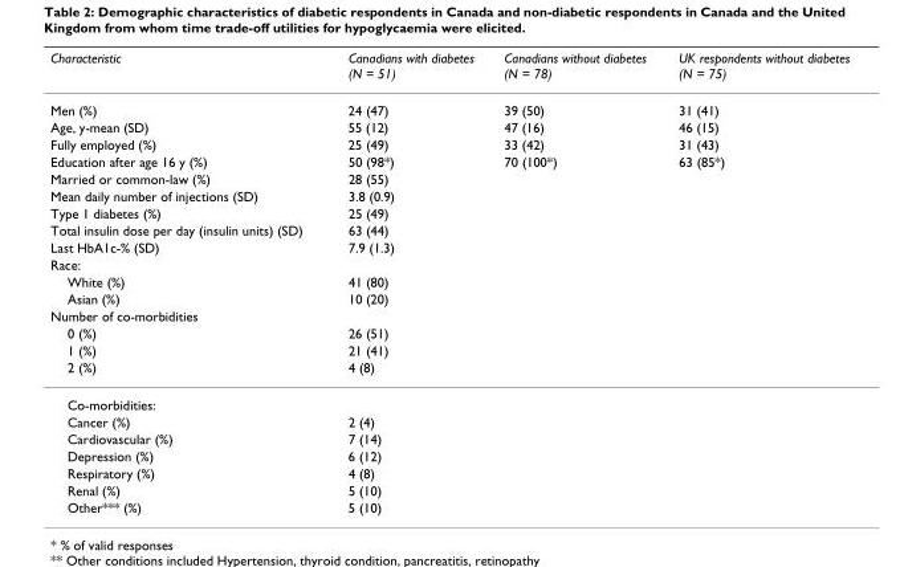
<table><thead><tr><td>Characteristic</td><td>Canadians with diabetes (N = 51)</td><td>Canadians without diabetes (N = 78)</td><td>UK respondents without diabetes (N = 75)</td></tr></thead><tbody><tr><td>Men (%)</td><td>24 (47)</td><td>39 (50)</td><td>31 (41)</td></tr><tr><td>Age, y-mean (SD)</td><td>55 (12)</td><td>47 (16)</td><td>46 (15)</td></tr><tr><td>Fully employed (%)</td><td>25 (49)</td><td>33 (42)</td><td>31 (43)</td></tr><tr><td>Education after age 16 y (%)</td><td>50 (98*)</td><td>70 (100*)</td><td>63 (85*)</td></tr><tr><td>Married or common-law (%)</td><td>28 (55)</td><td></td><td></td></tr><tr><td>Mean daily number of injections (SD)</td><td>3.8 (0.9)</td><td></td><td></td></tr><tr><td>Type 1 diabetes (%)</td><td>25 (49)</td><td></td><td></td></tr><tr><td>Total insulin dose per day (insulin units) (SD)</td><td>63 (44)</td><td></td><td></td></tr><tr><td>Last HbA1c-% (SD)</td><td>7.9 (1.3)</td><td></td><td></td></tr><tr><td colspan="4">Race:</td></tr><tr><td>White (%)</td><td>41 (80)</td><td></td><td></td></tr><tr><td>Asian (%)</td><td>10 (20)</td><td></td><td></td></tr><tr><td colspan="4">Number of co-morbidities</td></tr><tr><td>0 (%)</td><td>26 (51)</td><td></td><td></td></tr><tr><td>1 (%)</td><td>21 (41)</td><td></td><td></td></tr><tr><td>2 (%)</td><td>4 (8)</td><td></td><td></td></tr><tr><td colspan="4">Co-morbidities:</td></tr><tr><td>Cancer (%)</td><td>2 (4)</td><td></td><td></td></tr><tr><td>Cardiovascular (%)</td><td>7 (14)</td><td></td><td></td></tr><tr><td>Depression (%)</td><td>6 (12)</td><td></td><td></td></tr><tr><td>Respiratory (%)</td><td>4 (8)</td><td></td><td></td></tr><tr><td>Renal (%)</td><td>5 (10)</td><td></td><td></td></tr><tr><td>Other*** (%)</td><td>5 (10)</td><td></td><td></td></tr></tbody></table>